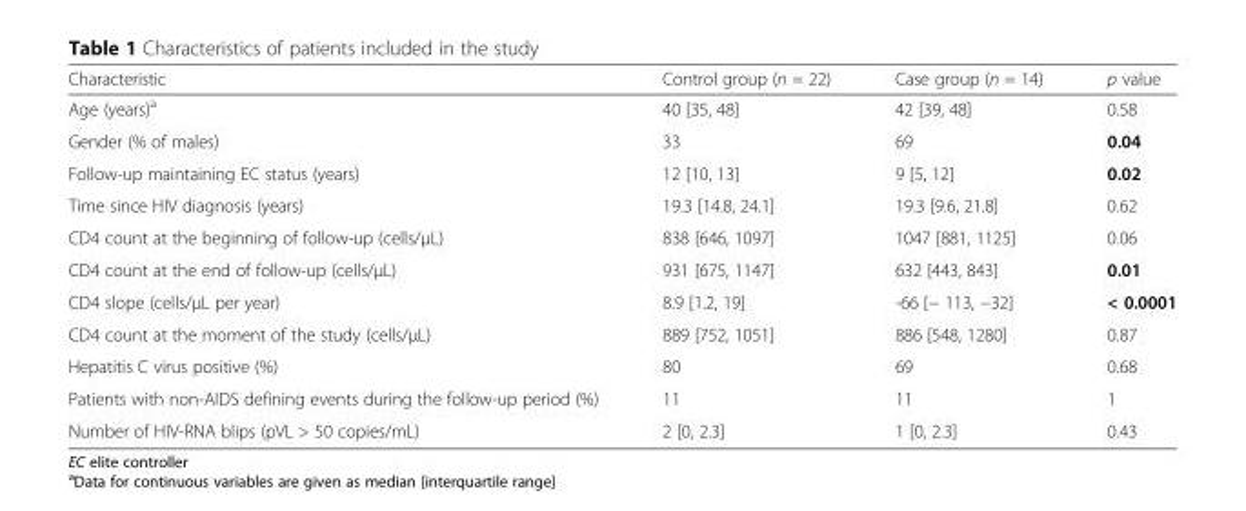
<table><thead><tr><td>Characteristic</td><td>Control group (n = 22)</td><td>Case group (n = 14)</td><td>p value</td></tr></thead><tbody><tr><td>Age (years)<sup>a</sup></td><td>40 [35, 48]</td><td>42 [39, 48]</td><td>0.58</td></tr><tr><td>Gender (% of males)</td><td>33</td><td>69</td><td>0.04</td></tr><tr><td>Follow-up maintaining EC status (years)</td><td>12 [10, 13]</td><td>9 [5, 12]</td><td>0.02</td></tr><tr><td>Time since HIV diagnosis (years)</td><td>19.3 [14.8, 24.1]</td><td>19.3 [9.6, 21.8]</td><td>0.62</td></tr><tr><td>CD4 count at the beginning of follow-up (cells/μL)</td><td>838 [646, 1097]</td><td>1047 [881, 1125]</td><td>0.06</td></tr><tr><td>CD4 count at the end of follow-up (cells/μL)</td><td>931 [675, 1147]</td><td>632 [443, 843]</td><td>0.01</td></tr><tr><td>CD4 slope (cells/μL per year)</td><td>8.9 [1.2, 19]</td><td>-66 [− 113, −32]</td><td>&lt; 0.0001</td></tr><tr><td>CD4 count at the moment of the study (cells/μL)</td><td>889 [752, 1051]</td><td>886 [548, 1280]</td><td>0.87</td></tr><tr><td>Hepatitis C virus positive (%)</td><td>80</td><td>69</td><td>0.68</td></tr><tr><td>Patients with non-AIDS defining events during the follow-up period (%)</td><td>11</td><td>11</td><td>1</td></tr><tr><td>Number of HIV-RNA blips (pVL &gt; 50 copies/mL)</td><td>2 [0, 2.3]</td><td>1 [0, 2.3]</td><td>0.43</td></tr></tbody></table>